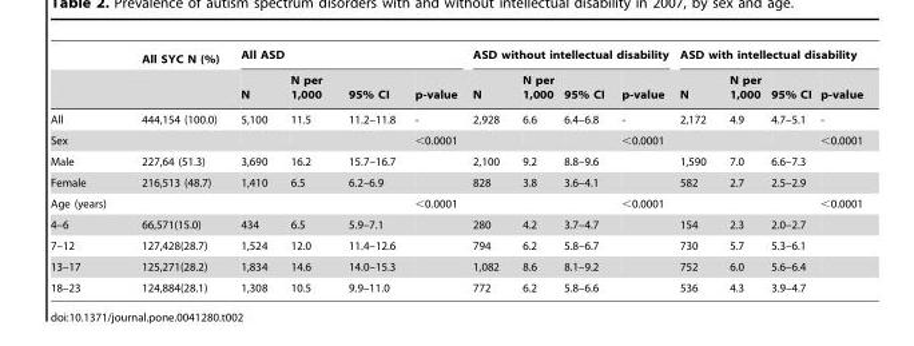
<table><thead><tr><td rowspan="2"></td><td rowspan="2">All SYC N (%)</td><td colspan="4">All ASD</td><td colspan="4">ASD without intellectual disability</td><td colspan="4">ASD with intellectual disability</td></tr><tr><td>N</td><td>N per 1,000</td><td>95% CI</td><td>p-value</td><td>N</td><td>N per 1,000</td><td>95% CI</td><td>p-value</td><td>N</td><td>N per 1,000</td><td>95% CI</td><td>p-value</td></tr></thead><tbody><tr><td>All</td><td>444,154 (100.0)</td><td>5,100</td><td>11.5</td><td>11.2–11.8</td><td>-</td><td>2,928</td><td>6.6</td><td>6.4–6.8</td><td>-</td><td>2,172</td><td>4.9</td><td>4.7–5.1</td><td>-</td></tr><tr><td>Sex</td><td></td><td></td><td></td><td></td><td>&lt;0.0001</td><td></td><td></td><td></td><td>&lt;0.0001</td><td></td><td></td><td></td><td>&lt;0.0001</td></tr><tr><td>Male</td><td>227,64 (51.3)</td><td>3,690</td><td>16.2</td><td>15.7–16.7</td><td></td><td>2,100</td><td>9.2</td><td>8.8–9.6</td><td></td><td>1,590</td><td>7.0</td><td>6.6–7.3</td><td></td></tr><tr><td>Female</td><td>216,513 (48.7)</td><td>1,410</td><td>6.5</td><td>6.2–6.9</td><td></td><td>828</td><td>3.8</td><td>3.6–4.1</td><td></td><td>582</td><td>2.7</td><td>2.5–2.9</td><td></td></tr><tr><td>Age (years)</td><td></td><td></td><td></td><td></td><td>&lt;0.0001</td><td></td><td></td><td></td><td>&lt;0.0001</td><td></td><td></td><td></td><td>&lt;0.0001</td></tr><tr><td>4–6</td><td>66,571(15.0)</td><td>434</td><td>6.5</td><td>5.9–7.1</td><td></td><td>280</td><td>4.2</td><td>3.7–4.7</td><td></td><td>154</td><td>2.3</td><td>2.0–2.7</td><td></td></tr><tr><td>7–12</td><td>127,428(28.7)</td><td>1,524</td><td>12.0</td><td>11.4–12.6</td><td></td><td>794</td><td>6.2</td><td>5.8–6.7</td><td></td><td>730</td><td>5.7</td><td>5.3–6.1</td><td></td></tr><tr><td>13–17</td><td>125,271(28.2)</td><td>1,834</td><td>14.6</td><td>14.0–15.3</td><td></td><td>1,082</td><td>8.6</td><td>8.1–9.2</td><td></td><td>752</td><td>6.0</td><td>5.6–6.4</td><td></td></tr><tr><td>18–23</td><td>124,884(28.1)</td><td>1,308</td><td>10.5</td><td>9.9–11.0</td><td></td><td>772</td><td>6.2</td><td>5.8–6.6</td><td></td><td>536</td><td>4.3</td><td>3.9–4.7</td><td></td></tr></tbody></table>